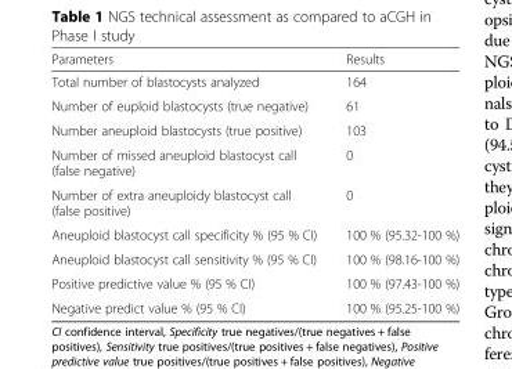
<table><thead><tr><td>Parameters</td><td>Results</td></tr></thead><tbody><tr><td>Total number of blastocysts analyzed</td><td>164</td></tr><tr><td>Number of euploid blastocysts (true negative)</td><td>61</td></tr><tr><td>Number aneuploid blastocysts (true positive)</td><td>103</td></tr><tr><td>Number of missed aneuploid blastocyst call (false negative)</td><td>0</td></tr><tr><td>Number of extra aneuploidy blastocyst call (false positive)</td><td>0</td></tr><tr><td>Aneuploid blastocyst call specificity % (95 % CI)</td><td>100 % (95.32-100 %)</td></tr><tr><td>Aneuploid blastocyst call sensitivity % (95 % CI)</td><td>100 % (98.16-100 %)</td></tr><tr><td>Positive predictive value % (95 % CI)</td><td>100 % (97.43-100 %)</td></tr><tr><td>Negative predict value % (95 % CI)</td><td>100 % (95.25-100 %)</td></tr></tbody></table>